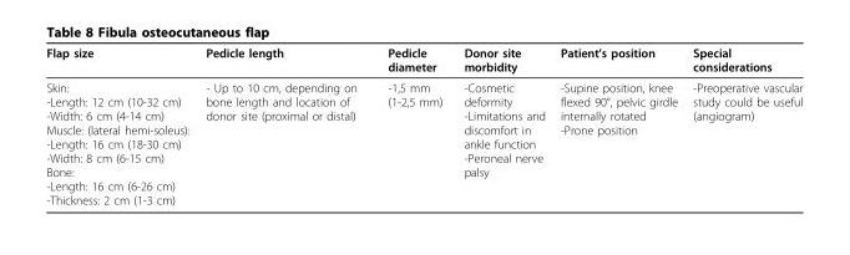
<table><thead><tr><td>Flap size</td><td>Pedicle length</td><td>Pedicle diameter</td><td>Donor site morbidity</td><td>Patient’s position</td><td>Special considerations</td></tr></thead><tbody><tr><td>Skin: -Length: 12 cm (10-32 cm) -Width: 6 cm (4-14 cm) Muscle: (lateral hemi-soleus): -Length: 16 cm (18-30 cm) -Width: 8 cm (6-15 cm) Bone: -Length: 16 cm (6-26 cm) -Thickness: 2 cm (1-3 cm)</td><td>- Up to 10 cm, depending on bone length and location of donor site (proximal or distal)</td><td>-1,5 mm (1-2,5 mm)</td><td>-Cosmetic deformity -Limitations and discomfort in ankle function -Peroneal nerve palsy</td><td>-Supine position, knee flexed 90°, pelvic girdle internally rotated -Prone position</td><td>-Preoperative vascular study could be useful (angiogram)</td></tr></tbody></table>